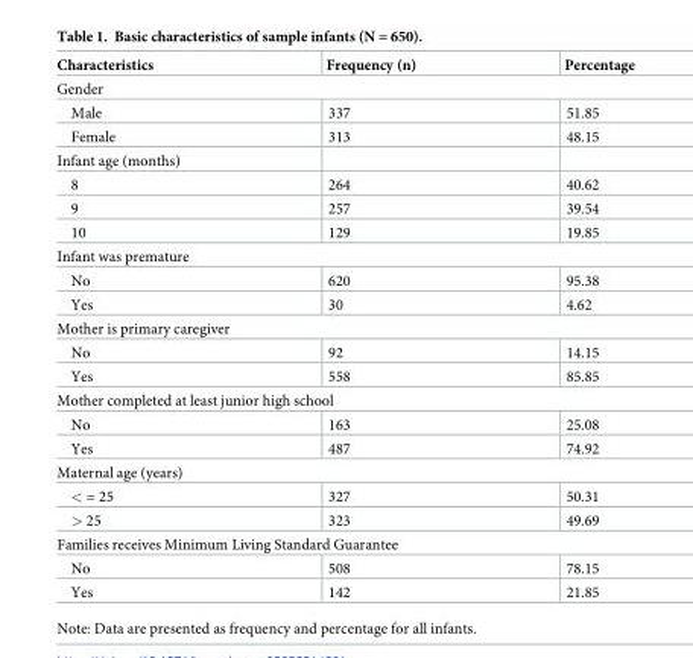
<table><thead><tr><td>Characteristics</td><td>Frequency (n)</td><td>Percentage</td></tr></thead><tbody><tr><td colspan="3">Gender</td></tr><tr><td>Male</td><td>337</td><td>51.85</td></tr><tr><td>Female</td><td>313</td><td>48.15</td></tr><tr><td colspan="3">Infant age (months)</td></tr><tr><td>8</td><td>264</td><td>40.62</td></tr><tr><td>9</td><td>257</td><td>39.54</td></tr><tr><td>10</td><td>129</td><td>19.85</td></tr><tr><td colspan="3">Infant was premature</td></tr><tr><td>No</td><td>620</td><td>95.38</td></tr><tr><td>Yes</td><td>30</td><td>4.62</td></tr><tr><td colspan="3">Mother is primary caregiver</td></tr><tr><td>No</td><td>92</td><td>14.15</td></tr><tr><td>Yes</td><td>558</td><td>85.85</td></tr><tr><td colspan="3">Mother completed at least junior high school</td></tr><tr><td>No</td><td>163</td><td>25.08</td></tr><tr><td>Yes</td><td>487</td><td>74.92</td></tr><tr><td colspan="3">Maternal age (years)</td></tr><tr><td>&lt; = 25</td><td>327</td><td>50.31</td></tr><tr><td>&gt; 25</td><td>323</td><td>49.69</td></tr><tr><td colspan="3">Families receives Minimum Living Standard Guarantee</td></tr><tr><td>No</td><td>508</td><td>78.15</td></tr><tr><td>Yes</td><td>142</td><td>21.85</td></tr></tbody></table>